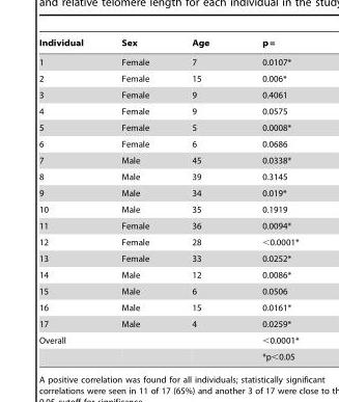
<table><thead><tr><td>Individual</td><td>Sex</td><td>Age</td><td>p =</td></tr></thead><tbody><tr><td>1</td><td>Female</td><td>7</td><td>0.0107*</td></tr><tr><td>2</td><td>Female</td><td>15</td><td>0.006*</td></tr><tr><td>3</td><td>Female</td><td>9</td><td>0.4061</td></tr><tr><td>4</td><td>Female</td><td>9</td><td>0.0575</td></tr><tr><td>5</td><td>Female</td><td>5</td><td>0.0008*</td></tr><tr><td>6</td><td>Female</td><td>6</td><td>0.0686</td></tr><tr><td>7</td><td>Male</td><td>45</td><td>0.0338*</td></tr><tr><td>8</td><td>Male</td><td>39</td><td>0.3145</td></tr><tr><td>9</td><td>Male</td><td>34</td><td>0.019*</td></tr><tr><td>10</td><td>Male</td><td>35</td><td>0.1919</td></tr><tr><td>11</td><td>Female</td><td>36</td><td>0.0094*</td></tr><tr><td>12</td><td>Female</td><td>28</td><td>&lt;0.0001*</td></tr><tr><td>13</td><td>Female</td><td>33</td><td>0.0252*</td></tr><tr><td>14</td><td>Male</td><td>12</td><td>0.0086*</td></tr><tr><td>15</td><td>Male</td><td>6</td><td>0.0506</td></tr><tr><td>16</td><td>Male</td><td>15</td><td>0.0161*</td></tr><tr><td>17</td><td>Male</td><td>4</td><td>0.0259*</td></tr><tr><td rowspan="2">Overall</td><td></td><td></td><td>&lt;0.0001*</td></tr><tr><td></td><td></td><td>*p&lt;0.05</td></tr></tbody></table>